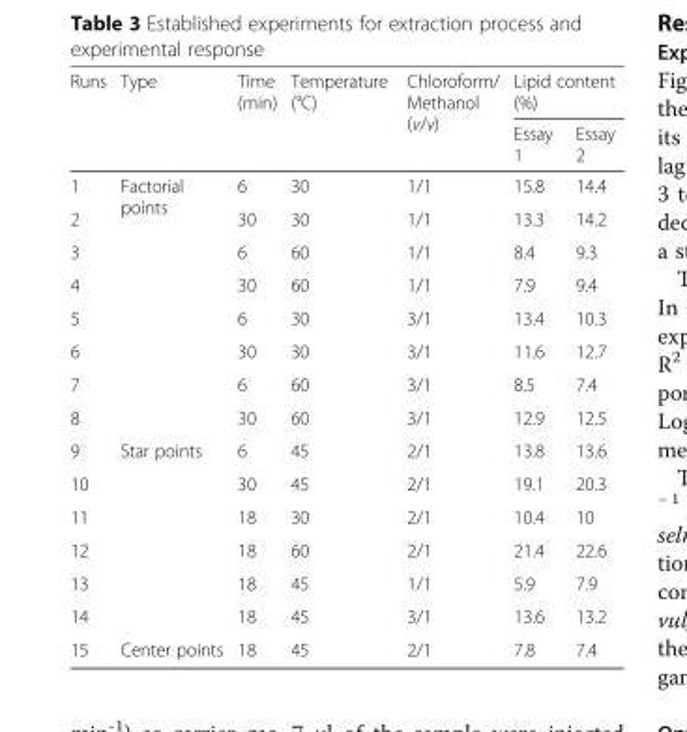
<table><thead><tr><td rowspan="2">Runs</td><td rowspan="2">Type</td><td rowspan="2">Time (min)</td><td rowspan="2">Temperature (°C)</td><td rowspan="2">Chloroform/ Methanol (v/v)</td><td colspan="2">Lipid content (%)</td></tr><tr><td>Essay 1</td><td>Essay 2</td></tr></thead><tbody><tr><td>1</td><td rowspan="8">Factorial points</td><td>6</td><td>30</td><td>1/1</td><td>15.8</td><td>14.4</td></tr><tr><td>2</td><td>30</td><td>30</td><td>1/1</td><td>13.3</td><td>14.2</td></tr><tr><td>3</td><td>6</td><td>60</td><td>1/1</td><td>8.4</td><td>9.3</td></tr><tr><td>4</td><td>30</td><td>60</td><td>1/1</td><td>7.9</td><td>9.4</td></tr><tr><td>5</td><td>6</td><td>30</td><td>3/1</td><td>13.4</td><td>10.3</td></tr><tr><td>6</td><td>30</td><td>30</td><td>3/1</td><td>11.6</td><td>12.7</td></tr><tr><td>7</td><td>6</td><td>60</td><td>3/1</td><td>8.5</td><td>7.4</td></tr><tr><td>8</td><td>30</td><td>60</td><td>3/1</td><td>12.9</td><td>12.5</td></tr><tr><td>9</td><td rowspan="6">Star points</td><td>6</td><td>45</td><td>2/1</td><td>13.8</td><td>13.6</td></tr><tr><td>10</td><td>30</td><td>45</td><td>2/1</td><td>19.1</td><td>20.3</td></tr><tr><td>11</td><td>18</td><td>30</td><td>2/1</td><td>10.4</td><td>10</td></tr><tr><td>12</td><td>18</td><td>60</td><td>2/1</td><td>21.4</td><td>22.6</td></tr><tr><td>13</td><td>18</td><td>45</td><td>1/1</td><td>5.9</td><td>7.9</td></tr><tr><td>14</td><td>18</td><td>45</td><td>3/1</td><td>13.6</td><td>13.2</td></tr><tr><td>15</td><td>Center points</td><td>18</td><td>45</td><td>2/1</td><td>7.8</td><td>7.4</td></tr></tbody></table>